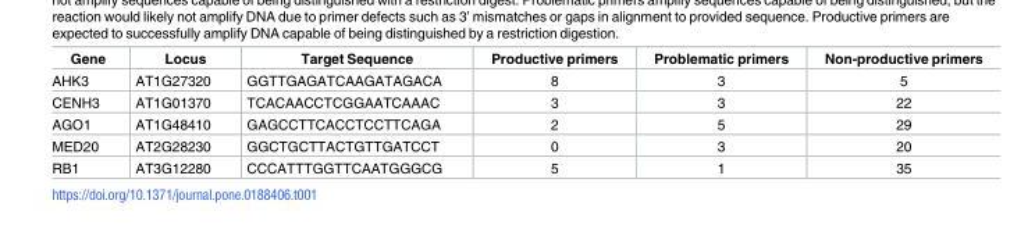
<table><thead><tr><td>Gene</td><td>Locus</td><td>Target Sequence</td><td>Productive primers</td><td>Problematic primers</td><td>Non-productive primers</td></tr></thead><tbody><tr><td>AHK3</td><td>AT1G27320</td><td>GGTTGAGATCAAGATAGACA</td><td>8</td><td>3</td><td>5</td></tr><tr><td>CENH3</td><td>AT1G01370</td><td>TCACAACCTCGGAATCAAAC</td><td>3</td><td>3</td><td>22</td></tr><tr><td>AGO1</td><td>AT1G48410</td><td>GAGCCTTCACCTCCTTCAGA</td><td>2</td><td>5</td><td>29</td></tr><tr><td>MED20</td><td>AT2G28230</td><td>GGCTGCTTACTGTTGATCCT</td><td>0</td><td>3</td><td>20</td></tr><tr><td>RB1</td><td>AT3G12280</td><td>CCCATTTGGTTCAATGGGCG</td><td>5</td><td>1</td><td>35</td></tr></tbody></table>